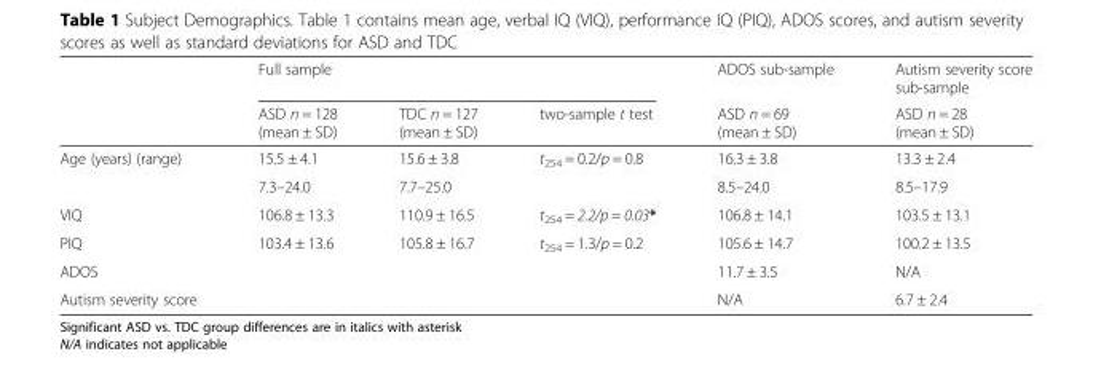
<table><thead><tr><td rowspan="2"></td><td colspan="3">Full sample</td><td rowspan="2">ADOS sub-sample ASD n = 69 (mean ± SD)</td><td rowspan="2">Autism severity score sub-sample ASD n = 28 (mean ± SD)</td></tr><tr><td>ASD n = 128 (mean ± SD)</td><td>TDC n = 127 (mean ± SD)</td><td>two-sample t test</td></tr></thead><tbody><tr><td rowspan="2">Age (years) (range)</td><td>15.5 ± 4.1</td><td>15.6 ± 3.8</td><td rowspan="2">t<sub>254</sub> = 0.2/p = 0.8</td><td>16.3 ± 3.8</td><td>13.3 ± 2.4</td></tr><tr><td>7.3–24.0</td><td>7.7–25.0</td><td>8.5–24.0</td><td>8.5–17.9</td></tr><tr><td>VIQ</td><td>106.8 ± 13.3</td><td>110.9 ± 16.5</td><td>t<sub>254</sub> = 2.2/p = 0.03*</td><td>106.8 ± 14.1</td><td>103.5 ± 13.1</td></tr><tr><td>PIQ</td><td>103.4 ± 13.6</td><td>105.8 ± 16.7</td><td>t<sub>254</sub> = 1.3/p = 0.2</td><td>105.6 ± 14.7</td><td>100.2 ± 13.5</td></tr><tr><td>ADOS</td><td></td><td></td><td></td><td>11.7 ± 3.5</td><td>N/A</td></tr><tr><td>Autism severity score</td><td></td><td></td><td></td><td>N/A</td><td>6.7 ± 2.4</td></tr></tbody></table>